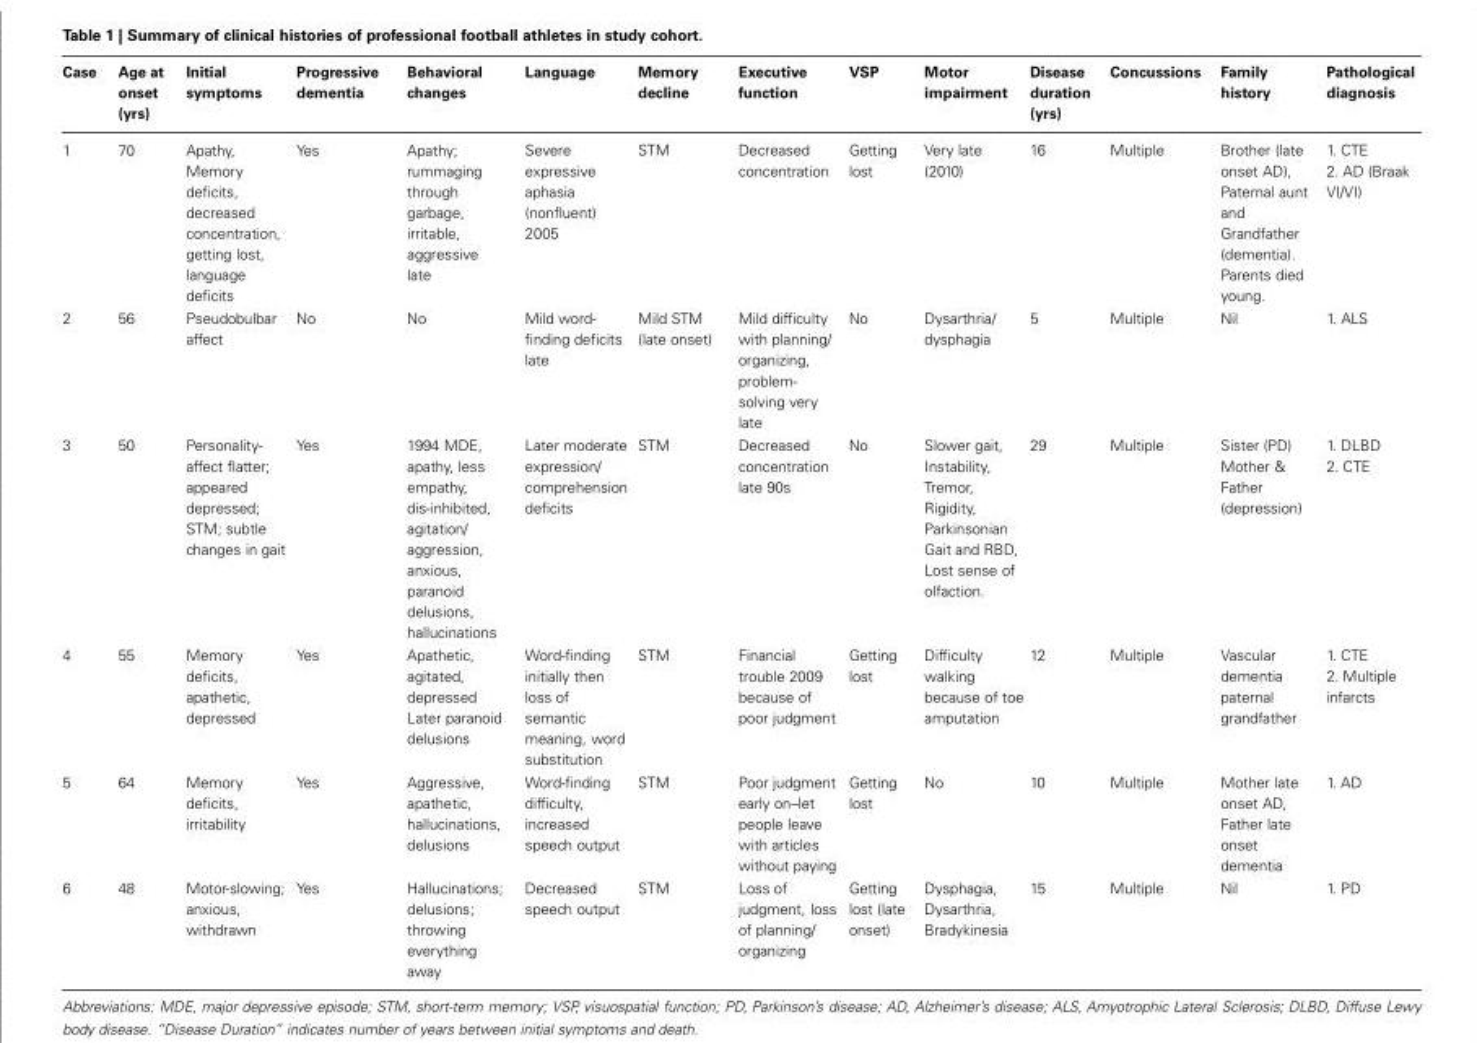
<table><thead><tr><td>Case</td><td>Age at onset (yrs)</td><td>Initial symptoms</td><td>Progressive dementia</td><td>Behavioral changes</td><td>Language</td><td>Memory decline</td><td>Executive function</td><td>VSP</td><td>Motor impairment</td><td>Disease duration (yrs)</td><td>Concussions</td><td>Family history</td><td>Pathological diagnosis</td></tr></thead><tbody><tr><td rowspan="2">1</td><td rowspan="2">70</td><td rowspan="2">Apathy, Memory deficits, decreased concentration, getting lost, language deficits</td><td rowspan="2">Yes</td><td rowspan="2">Apathy; rummaging through garbage, irritable, aggressive late</td><td rowspan="2">Severe expressive aphasia (nonfluent) 2005</td><td rowspan="2">STM</td><td rowspan="2">Decreased concentration</td><td rowspan="2">Getting lost</td><td rowspan="2">Very late (2010)</td><td rowspan="2">16</td><td rowspan="2">Multiple</td><td rowspan="2">Brother (late onset AD), Paternal aunt and Grandfather (dementia). Parents died young.</td><td>1. CTE</td></tr><tr><td>2. AD (Braak VI/VI)</td></tr><tr><td>2</td><td>56</td><td>Pseudobulbar affect</td><td>No</td><td>No</td><td>Mild word- finding deficits late</td><td>Mild STM (late onset)</td><td>Mild difficulty with planning/ organizing, problem- solving very late</td><td>No</td><td>Dysarthria/ dysphagia</td><td>5</td><td>Multiple</td><td>Nil</td><td>1. ALS</td></tr><tr><td rowspan="2">3</td><td rowspan="2">50</td><td rowspan="2">Personality- affect flatter; appeared depressed; STM; subtle changes in gait</td><td rowspan="2">Yes</td><td rowspan="2">1994 MDE, apathy, less empathy, dis-inhibited, agitation/ aggression, anxious, paranoid delusions, hallucinations</td><td rowspan="2">Later moderate expression/ comprehension deficits</td><td rowspan="2">STM</td><td rowspan="2">Decreased concentration late 90s</td><td rowspan="2">No</td><td rowspan="2">Slower gait, Instability, Tremor, Rigidity, Parkinsonian Gait and RBD, Lost sense of olfaction.</td><td rowspan="2">29</td><td rowspan="2">Multiple</td><td rowspan="2">Sister (PD) Mother &amp; Father (depression)</td><td>1. DLBD</td></tr><tr><td>2. CTE</td></tr><tr><td rowspan="2">4</td><td rowspan="2">55</td><td rowspan="2">Memory deficits, apathetic, depressed</td><td rowspan="2">Yes</td><td rowspan="2">Apathetic, agitated, depressed Later paranoid delusions</td><td rowspan="2">Word-finding initially then loss of semantic meaning, word substitution</td><td rowspan="2">STM</td><td rowspan="2">Financial trouble 2009 because of poor judgment</td><td rowspan="2">Getting lost</td><td rowspan="2">Difficulty walking because of toe amputation</td><td rowspan="2">12</td><td rowspan="2">Multiple</td><td rowspan="2">Vascular dementia paternal grandfather</td><td>1. CTE</td></tr><tr><td>2. Multiple infarcts</td></tr><tr><td>5</td><td>64</td><td>Memory deficits, irritability</td><td>Yes</td><td>Aggressive, apathetic, hallucinations, delusions</td><td>Word-finding difficulty, increased speech output</td><td>STM</td><td>Poor judgment early on–let people leave with articles without paying</td><td>Getting lost</td><td>No</td><td>10</td><td>Multiple</td><td>Mother late onset AD, Father late onset dementia</td><td>1. AD</td></tr><tr><td>6</td><td>48</td><td>Motor-slowing; anxious, withdrawn</td><td>Yes</td><td>Hallucinations; delusions; throwing everything away</td><td>Decreased speech output</td><td>STM</td><td>Loss of judgment, loss of planning/ organizing</td><td>Getting lost (late onset)</td><td>Dysphagia, Dysarthria, Bradykinesia</td><td>15</td><td>Multiple</td><td>Nil</td><td>1. PD</td></tr></tbody></table>